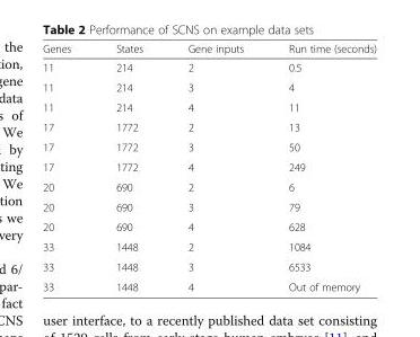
<table><thead><tr><td>Genes</td><td>States</td><td>Gene inputs</td><td>Run time (seconds)</td></tr></thead><tbody><tr><td>11</td><td>214</td><td>2</td><td>0.5</td></tr><tr><td>11</td><td>214</td><td>3</td><td>4</td></tr><tr><td>11</td><td>214</td><td>4</td><td>11</td></tr><tr><td>17</td><td>1772</td><td>2</td><td>13</td></tr><tr><td>17</td><td>1772</td><td>3</td><td>50</td></tr><tr><td>17</td><td>1772</td><td>4</td><td>249</td></tr><tr><td>20</td><td>690</td><td>2</td><td>6</td></tr><tr><td>20</td><td>690</td><td>3</td><td>79</td></tr><tr><td>20</td><td>690</td><td>4</td><td>628</td></tr><tr><td>33</td><td>1448</td><td>2</td><td>1084</td></tr><tr><td>33</td><td>1448</td><td>3</td><td>6533</td></tr><tr><td>33</td><td>1448</td><td>4</td><td>Out of memory</td></tr></tbody></table>